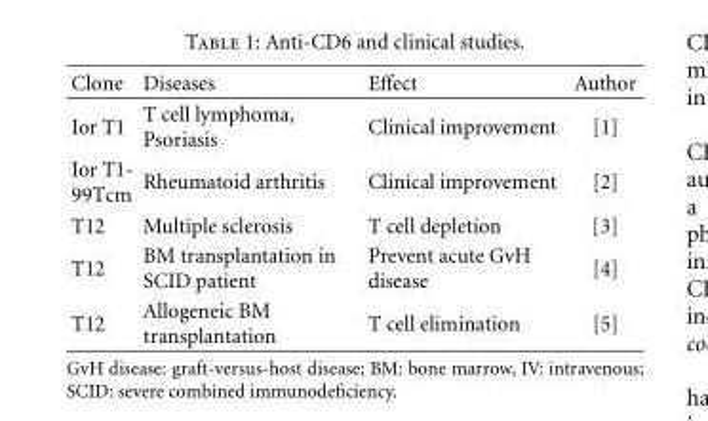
<table><thead><tr><td>Clone</td><td>Diseases</td><td>Effect</td><td>Author</td></tr></thead><tbody><tr><td>Ior T1</td><td>T cell lymphoma, Psoriasis</td><td>Clinical improvement</td><td>[1]</td></tr><tr><td>Ior T1- 99Tcm</td><td>Rheumatoid arthritis</td><td>Clinical improvement</td><td>[2]</td></tr><tr><td>T12</td><td>Multiple sclerosis</td><td>T cell depletion</td><td>[3]</td></tr><tr><td>T12</td><td>BM transplantation in SCID patient</td><td>Prevent acute GvH disease</td><td>[4]</td></tr><tr><td>T12</td><td>Allogeneic BM transplantation</td><td>T cell elimination</td><td>[5]</td></tr></tbody></table>